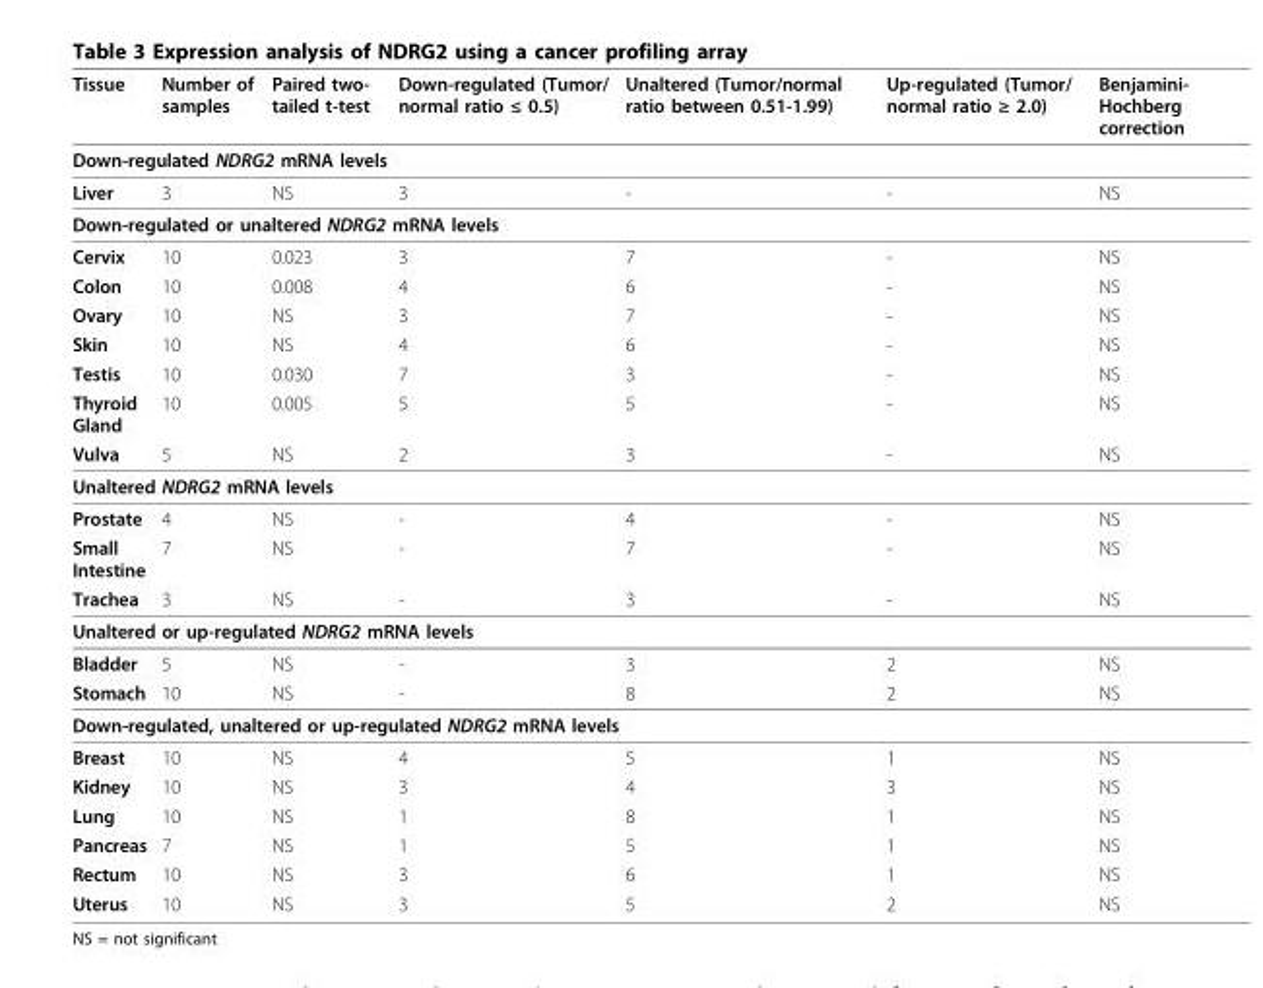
<table><thead><tr><td>Tissue</td><td>Number of samples</td><td>Paired two- tailed t-test</td><td>Down-regulated (Tumor/ normal ratio ≤ 0.5)</td><td>Unaltered (Tumor/normal ratio between 0.51-1.99)</td><td>Up-regulated (Tumor/ normal ratio ≥ 2.0)</td><td>Benjamini- Hochberg correction</td></tr></thead><tbody><tr><td colspan="7">Down-regulated NDRG2 mRNA levels</td></tr><tr><td>Liver</td><td>3</td><td>NS</td><td>3</td><td>-</td><td>-</td><td>NS</td></tr><tr><td colspan="7">Down-regulated or unaltered NDRG2 mRNA levels</td></tr><tr><td>Cervix</td><td>10</td><td>0.023</td><td>3</td><td>7</td><td>-</td><td>NS</td></tr><tr><td>Colon</td><td>10</td><td>0.008</td><td>4</td><td>6</td><td>-</td><td>NS</td></tr><tr><td>Ovary</td><td>10</td><td>NS</td><td>3</td><td>7</td><td>-</td><td>NS</td></tr><tr><td>Skin</td><td>10</td><td>NS</td><td>4</td><td>6</td><td>-</td><td>NS</td></tr><tr><td>Testis</td><td>10</td><td>0.030</td><td>7</td><td>3</td><td>-</td><td>NS</td></tr><tr><td>Thyroid Gland</td><td>10</td><td>0.005</td><td>5</td><td>5</td><td>-</td><td>NS</td></tr><tr><td>Vulva</td><td>5</td><td>NS</td><td>2</td><td>3</td><td>-</td><td>NS</td></tr><tr><td colspan="7">Unaltered NDRG2 mRNA levels</td></tr><tr><td>Prostate</td><td>4</td><td>NS</td><td>-</td><td>4</td><td>-</td><td>NS</td></tr><tr><td>Small Intestine</td><td>7</td><td>NS</td><td>-</td><td>7</td><td>-</td><td>NS</td></tr><tr><td>Trachea</td><td>3</td><td>NS</td><td>-</td><td>3</td><td>-</td><td>NS</td></tr><tr><td colspan="7">Unaltered or up-regulated NDRG2 mRNA levels</td></tr><tr><td>Bladder</td><td>5</td><td>NS</td><td>-</td><td>3</td><td>2</td><td>NS</td></tr><tr><td>Stomach</td><td>10</td><td>NS</td><td>-</td><td>8</td><td>2</td><td>NS</td></tr><tr><td colspan="7">Down-regulated, unaltered or up-regulated NDRG2 mRNA levels</td></tr><tr><td>Breast</td><td>10</td><td>NS</td><td>4</td><td>5</td><td>1</td><td>NS</td></tr><tr><td>Kidney</td><td>10</td><td>NS</td><td>3</td><td>4</td><td>3</td><td>NS</td></tr><tr><td>Lung</td><td>10</td><td>NS</td><td>1</td><td>8</td><td>1</td><td>NS</td></tr><tr><td>Pancreas</td><td>7</td><td>NS</td><td>1</td><td>5</td><td>1</td><td>NS</td></tr><tr><td>Rectum</td><td>10</td><td>NS</td><td>3</td><td>6</td><td>1</td><td>NS</td></tr><tr><td>Uterus</td><td>10</td><td>NS</td><td>3</td><td>5</td><td>2</td><td>NS</td></tr></tbody></table>